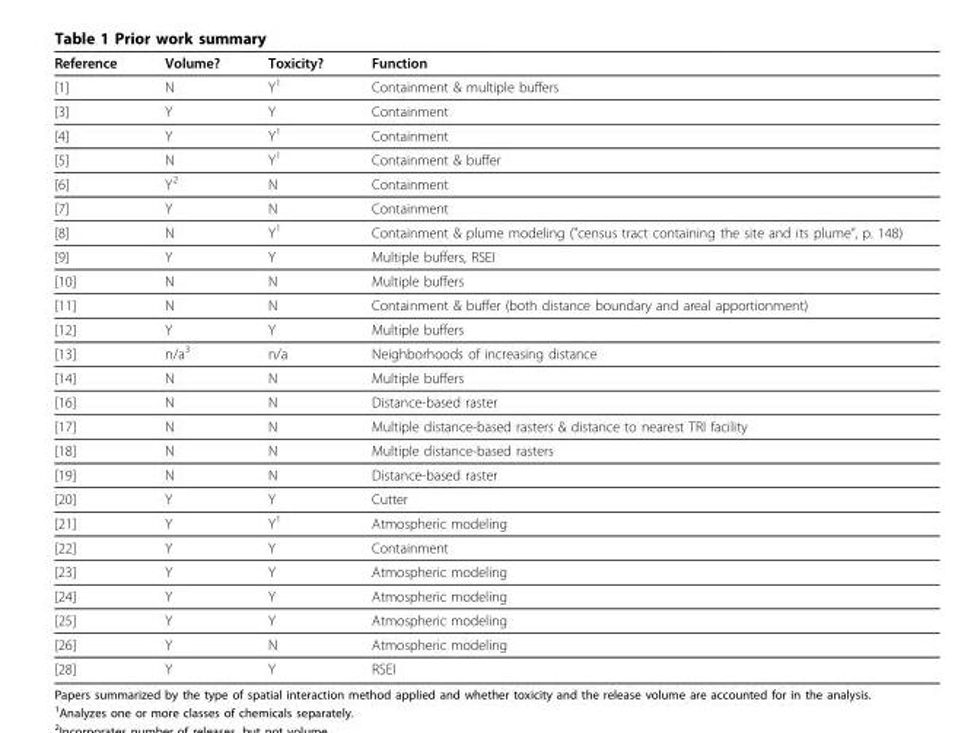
<table><thead><tr><td>Reference</td><td>Volume?</td><td>Toxicity?</td><td>Function</td></tr></thead><tbody><tr><td>[1]</td><td>N</td><td>Y1</td><td>Containment &amp; multiple buffers</td></tr><tr><td>[3]</td><td>Y</td><td>Y</td><td>Containment</td></tr><tr><td>[4]</td><td>Y</td><td>Y1</td><td>Containment</td></tr><tr><td>[5]</td><td>N</td><td>Y1</td><td>Containment &amp; buffer</td></tr><tr><td>[6]</td><td>Y2</td><td>N</td><td>Containment</td></tr><tr><td>[7]</td><td>Y</td><td>N</td><td>Containment</td></tr><tr><td>[8]</td><td>N</td><td>Y1</td><td>Containment &amp; plume modeling (&quot;census tract containing the site and its plume”, p. 148)</td></tr><tr><td>[9]</td><td>Y</td><td>Y</td><td>Multiple buffers, RSEI</td></tr><tr><td>[10]</td><td>N</td><td>N</td><td>Multiple buffers</td></tr><tr><td>[11]</td><td>N</td><td>N</td><td>Containment &amp; buffer (both distance boundary and areal apportionment)</td></tr><tr><td>[12]</td><td>Y</td><td>Y</td><td>Multiple buffers</td></tr><tr><td>[13]</td><td>n/a3</td><td>n/a</td><td>Neighborhoods of increasing distance</td></tr><tr><td>[14]</td><td>N</td><td>N</td><td>Multiple buffers</td></tr><tr><td>[16]</td><td>N</td><td>N</td><td>Distance-based raster</td></tr><tr><td>[17]</td><td>N</td><td>N</td><td>Multiple distance-based rasters &amp; distance to nearest TRI facility</td></tr><tr><td>[18]</td><td>N</td><td>N</td><td>Multiple distance-based rasters</td></tr><tr><td>[19]</td><td>N</td><td>N</td><td>Distance-based raster</td></tr><tr><td>[20]</td><td>Y</td><td>Y</td><td>Cutter</td></tr><tr><td>[21]</td><td>Y</td><td>Y1</td><td>Atmospheric modeling</td></tr><tr><td>[22]</td><td>Y</td><td>Y</td><td>Containment</td></tr><tr><td>[23]</td><td>Y</td><td>Y</td><td>Atmospheric modeling</td></tr><tr><td>[24]</td><td>Y</td><td>Y</td><td>Atmospheric modeling</td></tr><tr><td>[25]</td><td>Y</td><td>Y</td><td>Atmospheric modeling</td></tr><tr><td>[26]</td><td>Y</td><td>N</td><td>Atmospheric modeling</td></tr><tr><td>[28]</td><td>Y</td><td>Y</td><td>RSEI</td></tr></tbody></table>